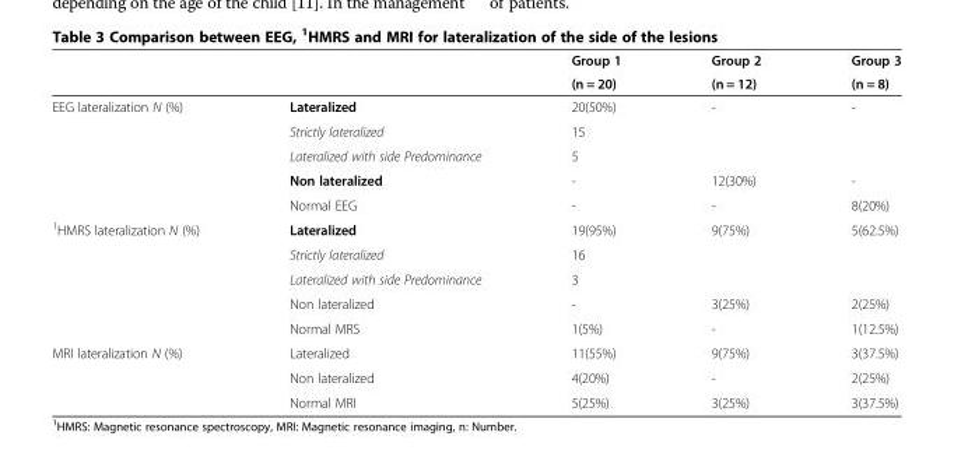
<table><thead><tr><td rowspan="2"></td><td rowspan="2"></td><td rowspan="2">Group 1 (n = 20)</td><td rowspan="2">Group 2 (n = 12)</td><td rowspan="2">Group 3 (n = 8)</td></tr><tr></tr></thead><tbody><tr><td rowspan="5">EEG lateralization N (%)</td><td>Lateralized</td><td>20(50%)</td><td>-</td><td>-</td></tr><tr><td>Strictly lateralized</td><td>15</td><td></td><td></td></tr><tr><td>Lateralized with side Predominance</td><td>5</td><td></td><td></td></tr><tr><td>Non lateralized</td><td>-</td><td>12(30%)</td><td>-</td></tr><tr><td>Normal EEG</td><td>-</td><td>-</td><td>8(20%)</td></tr><tr><td rowspan="5"><sup>1</sup>HMRS lateralization N (%)</td><td>Lateralized</td><td>19(95%)</td><td>9(75%)</td><td>5(62.5%)</td></tr><tr><td>Strictly lateralized</td><td>16</td><td></td><td></td></tr><tr><td>Lateralized with side Predominance</td><td>3</td><td></td><td></td></tr><tr><td>Non lateralized</td><td>-</td><td>3(25%)</td><td>2(25%)</td></tr><tr><td>Normal MRS</td><td>1(5%)</td><td>-</td><td>1(12.5%)</td></tr><tr><td rowspan="3">MRI lateralization N (%)</td><td>Lateralized</td><td>11(55%)</td><td>9(75%)</td><td>3(37.5%)</td></tr><tr><td>Non lateralized</td><td>4(20%)</td><td>-</td><td>2(25%)</td></tr><tr><td>Normal MRI</td><td>5(25%)</td><td>3(25%)</td><td>3(37.5%)</td></tr></tbody></table>